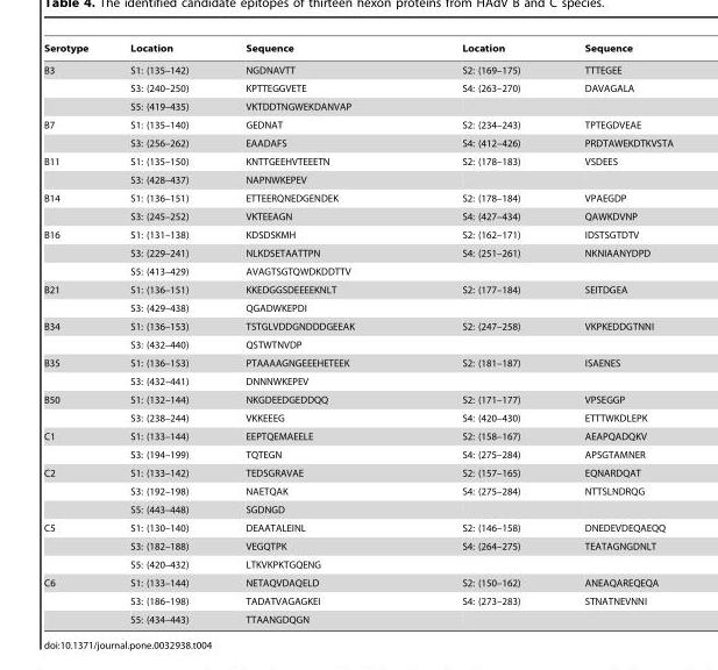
<table><thead><tr><td>Serotype</td><td>Location</td><td>Sequence</td><td>Location</td><td>Sequence</td></tr></thead><tbody><tr><td rowspan="3">B3</td><td>S1: (135–142)</td><td>NGDNAVTT</td><td>S2: (169–175)</td><td>TTTEGEE</td></tr><tr><td>S3: (240–250)</td><td>KPTTEGGVETE</td><td>S4: (263–270)</td><td>DAVAGALA</td></tr><tr><td>S5: (419–435)</td><td>VKTDDTNGWEKDANVAP</td><td></td><td></td></tr><tr><td rowspan="2">B7</td><td>S1: (135–140)</td><td>GEDNAT</td><td>S2: (234–243)</td><td>TPTEGDVEAE</td></tr><tr><td>S3: (256–262)</td><td>EAADAFS</td><td>S4: (412–426)</td><td>PRDTAWEKDTKVSTA</td></tr><tr><td rowspan="2">B11</td><td>S1: (135–150)</td><td>KNTTGEEHVTEEETN</td><td>S2: (178–183)</td><td>VSDEES</td></tr><tr><td>S3: (428–437)</td><td>NAPNWKEPEV</td><td></td><td></td></tr><tr><td rowspan="2">B14</td><td>S1: (136–151)</td><td>ETTEERQNEDGENDEK</td><td>S2: (178–184)</td><td>VPAEGDP</td></tr><tr><td>S3: (245–252)</td><td>VKTEEAGN</td><td>S4: (427–434)</td><td>QAWKDVNP</td></tr><tr><td rowspan="3">B16</td><td>S1: (131–138)</td><td>KDSDSKMH</td><td>S2: (162–171)</td><td>IDSTSGTDTV</td></tr><tr><td>S3: (229–241)</td><td>NLKDSETAATTPN</td><td>S4: (251–261)</td><td>NKNIAANYDPD</td></tr><tr><td>S5: (413–429)</td><td>AVAGTSGTQWDKDDTTV</td><td></td><td></td></tr><tr><td rowspan="2">B21</td><td>S1: (136–151)</td><td>KKEDGGSDEEEEKNLT</td><td>S2: (177–184)</td><td>SEITDGEA</td></tr><tr><td>S3: (429–438)</td><td>QGADWKEPDI</td><td></td><td></td></tr><tr><td rowspan="2">B34</td><td>S1: (136–153)</td><td>TSTGLVDDGNDDDGEEAK</td><td>S2: (247–258)</td><td>VKPKEDDGTNNI</td></tr><tr><td>S3: (432–440)</td><td>QSTWTNVDP</td><td></td><td></td></tr><tr><td rowspan="2">B35</td><td>S1: (136–153)</td><td>PTAAAAGNGEEEHETEEK</td><td>S2: (181–187)</td><td>ISAENES</td></tr><tr><td>S3: (432–441)</td><td>DNNNWKEPEV</td><td></td><td></td></tr><tr><td rowspan="2">B50</td><td>S1: (132–144)</td><td>NKGDEEDGEDDQQ</td><td>S2: (171–177)</td><td>VPSEGGP</td></tr><tr><td>S3: (238–244)</td><td>VKKEEEG</td><td>S4: (420–430)</td><td>ETTTWKDLEPK</td></tr><tr><td rowspan="2">C1</td><td>S1: (133–144)</td><td>EEPTQEMAEELE</td><td>S2: (158–167)</td><td>AEAPQADQKV</td></tr><tr><td>S3: (194–199)</td><td>TQTEGN</td><td>S4: (275–284)</td><td>APSGTAMNER</td></tr><tr><td rowspan="3">C2</td><td>S1: (133–142)</td><td>TEDSGRAVAE</td><td>S2: (157–165)</td><td>EQNARDQAT</td></tr><tr><td>S3: (192–198)</td><td>NAETQAK</td><td>S4: (275–284)</td><td>NTTSLNDRQG</td></tr><tr><td>S5: (443–448)</td><td>SGDNGD</td><td></td><td></td></tr><tr><td rowspan="3">C5</td><td>S1: (130–140)</td><td>DEAATALEINL</td><td>S2: (146–158)</td><td>DNEDEVDEQAEQQ</td></tr><tr><td>S3: (182–188)</td><td>VEGQTPK</td><td>S4: (264–275)</td><td>TEATAGNGDNLT</td></tr><tr><td>S5: (420–432)</td><td>LTKVKPKTGQENG</td><td></td><td></td></tr><tr><td rowspan="3">C6</td><td>S1: (133–144)</td><td>NETAQVDAQELD</td><td>S2: (150–162)</td><td>ANEAQAREQEQA</td></tr><tr><td>S3: (186–198)</td><td>TADATVAGAGKEI</td><td>S4: (273–283)</td><td>STNATNEVNNI</td></tr><tr><td>S5: (434–443)</td><td>TTAANGDQGN</td><td></td><td></td></tr></tbody></table>